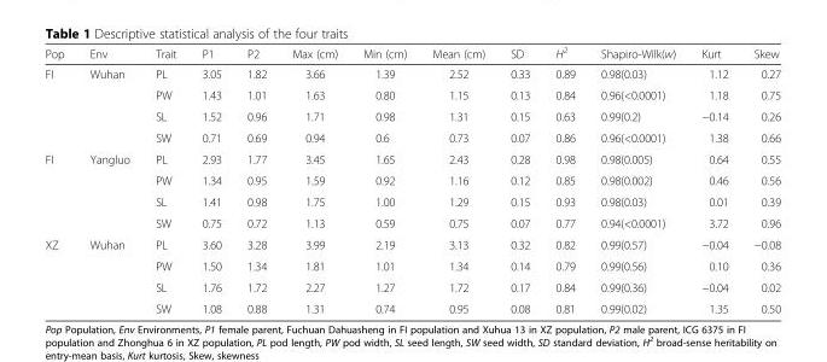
<table><thead><tr><td>Pop</td><td>Env</td><td>Trait</td><td>P1</td><td>P2</td><td>Max (cm)</td><td>Min (cm)</td><td>Mean (cm)</td><td>SD</td><td>H<sup>2</sup></td><td>Shapiro-Wilk(w)</td><td>Kurt</td><td>Skew</td></tr></thead><tbody><tr><td rowspan="4">FI</td><td>Wuhan</td><td>PL</td><td>3.05</td><td>1.82</td><td>3.66</td><td>1.39</td><td>2.52</td><td>0.33</td><td>0.89</td><td>0.98(0.03)</td><td>1.12</td><td>0.27</td></tr><tr><td></td><td>PW</td><td>1.43</td><td>1.01</td><td>1.63</td><td>0.80</td><td>1.15</td><td>0.13</td><td>0.84</td><td>0.96(&lt;0.0001)</td><td>1.18</td><td>0.75</td></tr><tr><td></td><td>SL</td><td>1.52</td><td>0.96</td><td>1.71</td><td>0.98</td><td>1.31</td><td>0.15</td><td>0.63</td><td>0.99(0.2)</td><td>−0.14</td><td>0.26</td></tr><tr><td></td><td>SW</td><td>0.71</td><td>0.69</td><td>0.94</td><td>0.6</td><td>0.73</td><td>0.07</td><td>0.86</td><td>0.96(&lt;0.0001)</td><td>1.38</td><td>0.66</td></tr><tr><td rowspan="4">FI</td><td>Yangluo</td><td>PL</td><td>2.93</td><td>1.77</td><td>3.45</td><td>1.65</td><td>2.43</td><td>0.28</td><td>0.98</td><td>0.98(0.005)</td><td>0.64</td><td>0.55</td></tr><tr><td></td><td>PW</td><td>1.34</td><td>0.95</td><td>1.59</td><td>0.92</td><td>1.16</td><td>0.12</td><td>0.85</td><td>0.98(0.002)</td><td>0.46</td><td>0.56</td></tr><tr><td></td><td>SL</td><td>1.41</td><td>0.98</td><td>1.75</td><td>1.00</td><td>1.29</td><td>0.15</td><td>0.93</td><td>0.98(0.03)</td><td>0.01</td><td>0.39</td></tr><tr><td></td><td>SW</td><td>0.75</td><td>0.72</td><td>1.13</td><td>0.59</td><td>0.75</td><td>0.07</td><td>0.77</td><td>0.94(&lt;0.0001)</td><td>3.72</td><td>0.96</td></tr><tr><td rowspan="4">XZ</td><td>Wuhan</td><td>PL</td><td>3.60</td><td>3.28</td><td>3.99</td><td>2.19</td><td>3.13</td><td>0.32</td><td>0.82</td><td>0.99(0.57)</td><td>−0.04</td><td>−0.08</td></tr><tr><td></td><td>PW</td><td>1.50</td><td>1.34</td><td>1.81</td><td>1.01</td><td>1.34</td><td>0.14</td><td>0.79</td><td>0.99(0.56)</td><td>0.10</td><td>0.36</td></tr><tr><td></td><td>SL</td><td>1.76</td><td>1.72</td><td>2.27</td><td>1.27</td><td>1.72</td><td>0.17</td><td>0.84</td><td>0.99(0.36)</td><td>−0.04</td><td>0.02</td></tr><tr><td></td><td>SW</td><td>1.08</td><td>0.88</td><td>1.31</td><td>0.74</td><td>0.95</td><td>0.08</td><td>0.81</td><td>0.99(0.02)</td><td>1.35</td><td>0.50</td></tr></tbody></table>